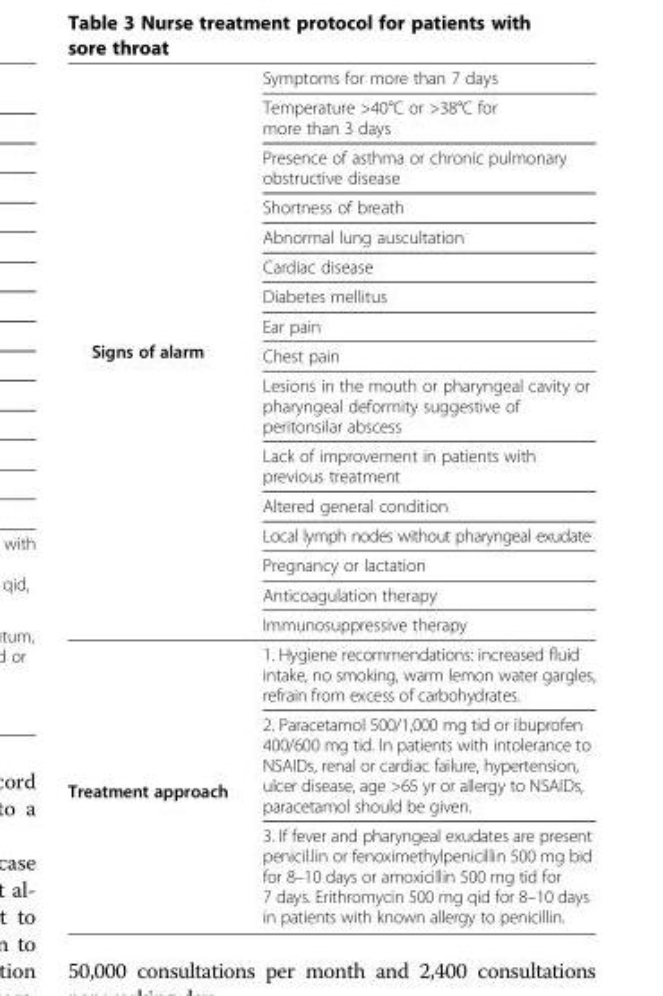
<table><tbody><tr><td rowspan="16">Signs of alarm</td><td>Symptoms for more than 7 days</td></tr><tr><td>Temperature &gt;40°C or &gt;38°C for more than 3 days</td></tr><tr><td>Presence of asthma or chronic pulmonary obstructive disease</td></tr><tr><td>Shortness of breath</td></tr><tr><td>Abnormal lung auscultation</td></tr><tr><td>Cardiac disease</td></tr><tr><td>Diabetes mellitus</td></tr><tr><td>Ear pain</td></tr><tr><td>Chest pain</td></tr><tr><td>Lesions in the mouth or pharyngeal cavity or pharyngeal deformity suggestive of peritonsilar abscess</td></tr><tr><td>Lack of improvement in patients with previous treatment</td></tr><tr><td>Altered general condition</td></tr><tr><td>Local lymph nodes without pharyngeal exudate</td></tr><tr><td>Pregnancy or lactation</td></tr><tr><td>Anticoagulation therapy</td></tr><tr><td>Immunosuppressive therapy</td></tr><tr><td rowspan="3">Treatment approach</td><td>1. Hygiene recommendations: increased fluid intake, no smoking, warm lemon water gargles, refrain from excess of carbohydrates.</td></tr><tr><td>2. Paracetamol 500/1,000 mg tid or ibuprofen 400/600 mg tid. In patients with intolerance to NSAIDs, renal or cardiac failure, hypertension, ulcer disease, age &gt;65 yr or allergy to NSAIDs, paracetamol should be given.</td></tr><tr><td>3. If fever and pharyngeal exudates are present penicil.lin or fenoximethylpenicillin 500 mg bid for 8–10 days or amoxicillin 500 mg tid for 7 days. Erithromycin 500 mg qid for 8–10 days in patients with known allergy to penicillin.</td></tr></tbody></table>